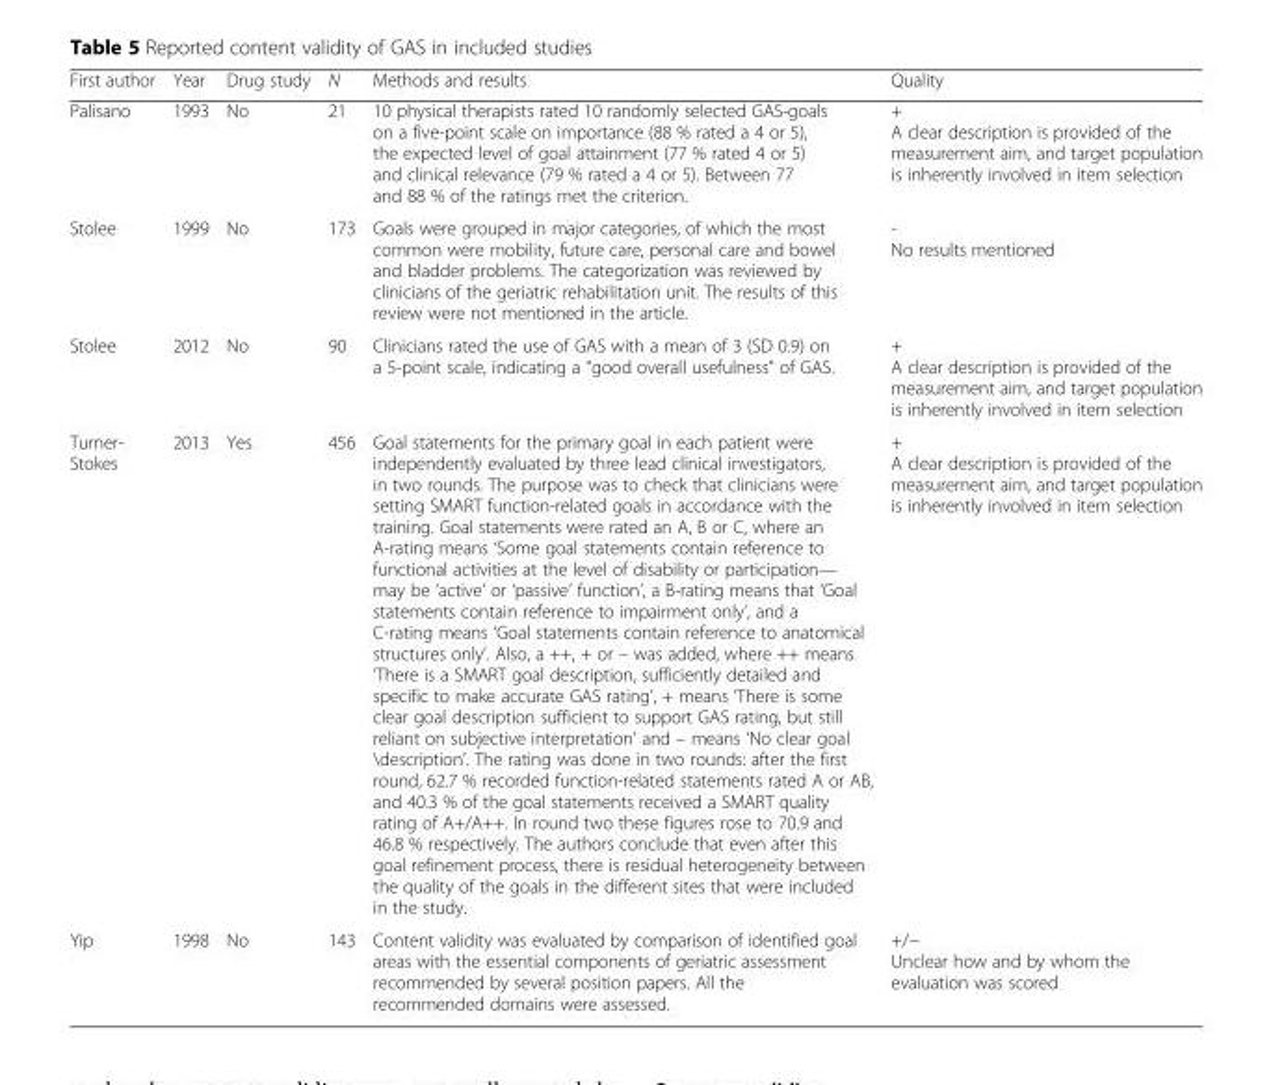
<table><thead><tr><td>First author</td><td>Year</td><td>Drug study</td><td>N</td><td>Methods and results</td><td>Quality</td></tr></thead><tbody><tr><td>Palisano</td><td>1993</td><td>No</td><td>21</td><td>10 physical therapists rated 10 randomly selected GAS-goals on a five-point scale on importance (88 % rated a 4 or 5), the expected level of goal attainment (77 % rated 4 or 5) and clinical relevance (79 % rated a 4 or 5). Between 77 and 88 % of the ratings met the criterion.</td><td>+ A clear description is provided of the measurement aim, and target population is inherently involved in item selection</td></tr><tr><td>Stolee</td><td>1999</td><td>No</td><td>173</td><td>Goals were grouped in major categories, of which the most common were mobility, future care, personal care and bowel and bladder problems. The categorization was reviewed by clinicians of the geriatric rehabilitation unit. The results of this review were not mentioned in the article.</td><td>- No results mentioned</td></tr><tr><td>Stolee</td><td>2012</td><td>No</td><td>90</td><td>Clinicians rated the use of GAS with a mean of 3 (SD 0.9) on a 5-point scale, indicating a “good overall usefulness” of GAS.</td><td>+ A clear description is provided of the measurement aim, and target population is inherently involved in item selection</td></tr><tr><td>Turner- Stokes</td><td>2013</td><td>Yes</td><td>456</td><td>Goal statements for the primary goal in each patient were independently evaluated by three lead clinical investigators, in two rounds. The purpose was to check that clinicians were setting SMART function-related goals in accordance with the training. Goal statements were rated an A, B or C, where an A-rating means ‘Some goal statements contain reference to functional activities at the level of disability or participation— may be ‘active’ or ‘passive’ function’, a B-rating means that ‘Goal statements contain reference to impairment only’, and a C-rating means ‘Goal statements contain reference to anatomical structures only’. Also, a ++, + or – was added, where ++ means ‘There is a SMART goal description, sufficiently detailed and specific to make accurate GAS rating’, + means ‘There is some clear goal description sufficient to support GAS rating, but still reliant on subjective interpretation’ and – means ‘No clear goal \description’. The rating was done in two rounds: after the first round, 62.7 % recorded function-related statements rated A or AB, and 40.3 % of the goal statements received a SMART quality rating of A+/A++. In round two these figures rose to 70.9 and 46.8 % respectively. The authors conclude that even after this goal refinement process, there is residual heterogeneity between the quality of the goals in the different sites that were included in the study.</td><td>+ A clear description is provided of the measurement aim, and target population is inherently involved in item selection</td></tr><tr><td>Yip</td><td>1998</td><td>No</td><td>143</td><td>Content validity was evaluated by comparison of identified goal areas with the essential components of geriatric assessment recommended by several position papers. All the recommended domains were assessed.</td><td>+/− Unclear how and by whom the evaluation was scored</td></tr></tbody></table>